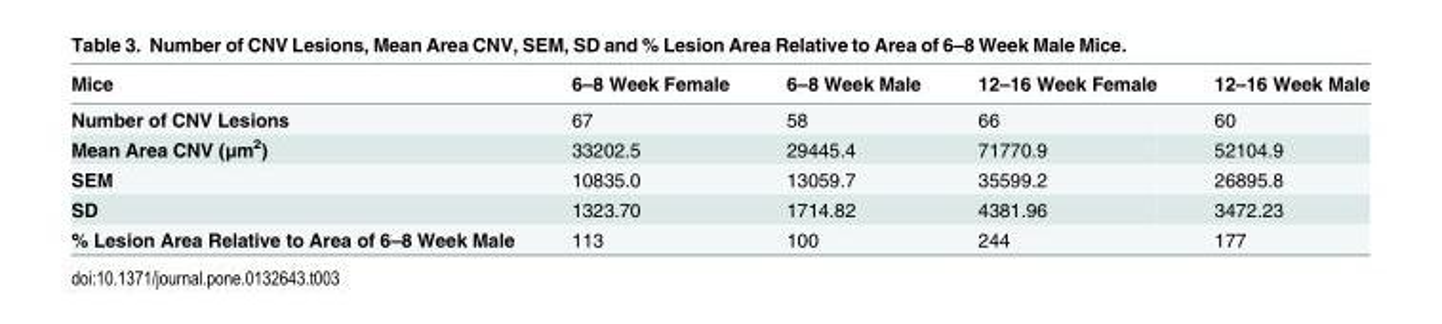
<table><thead><tr><td>Mice</td><td>6–8 Week Female</td><td>6–8 Week Male</td><td>12–16 Week Female</td><td>12–16 Week Male</td></tr></thead><tbody><tr><td>Number of CNV Lesions</td><td>67</td><td>58</td><td>66</td><td>60</td></tr><tr><td>Mean Area CNV (μm<sup>2</sup>)</td><td>33202.5</td><td>29445.4</td><td>71770.9</td><td>52104.9</td></tr><tr><td>SEM</td><td>10835.0</td><td>13059.7</td><td>35599.2</td><td>26895.8</td></tr><tr><td>SD</td><td>1323.70</td><td>1714.82</td><td>4381.96</td><td>3472.23</td></tr><tr><td>% Lesion Area Relative to Area of 6–8 Week Male</td><td>113</td><td>100</td><td>244</td><td>177</td></tr></tbody></table>